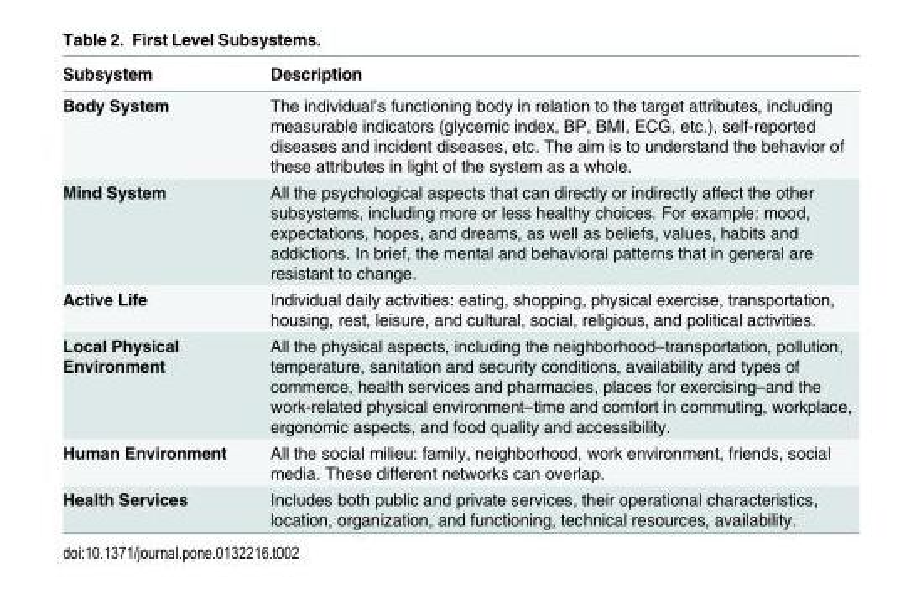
<table><thead><tr><td>Subsystem</td><td>Description</td></tr></thead><tbody><tr><td>Body System</td><td>The individual’s functioning body in relation to the target attributes, including measurable indicators (glycemic index, BP, BMI, ECG, etc.), self-reported diseases and incident diseases, etc. The aim is to understand the behavior of these attributes in light of the system as a whole.</td></tr><tr><td>Mind System</td><td>All the psychological aspects that can directly or indirectly affect the other subsystems, including more or less healthy choices. For example: mood, expectations, hopes, and dreams, as well as beliefs, values, habits and addictions. In brief, the mental and behavioral patterns that in general are resistant to change.</td></tr><tr><td>Active Life</td><td>Individual daily activities: eating, shopping, physical exercise, transportation, housing, rest, leisure, and cultural, social, religious, and political activities.</td></tr><tr><td>Local Physical Environment</td><td>All the physical aspects, including the neighborhood–transportation, pollution, temperature, sanitation and security conditions, availability and types of commerce, health services and pharmacies, places for exercising–and the work-related physical environment–time and comfort in commuting, workplace, ergonomic aspects, and food quality and accessibility.</td></tr><tr><td>Human Environment</td><td>All the social milieu: family, neighborhood, work environment, friends, social media. These different networks can overlap.</td></tr><tr><td>Health Services</td><td>Includes both public and private services, their operational characteristics, location, organization, and functioning, technical resources, availability.</td></tr></tbody></table>